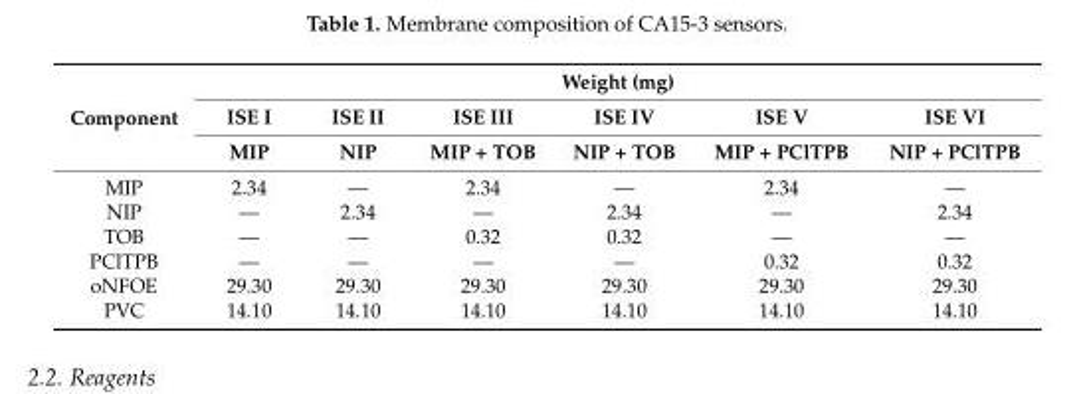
<table><thead><tr><td rowspan="3">Component</td><td colspan="6">Weight (mg)</td></tr><tr><td rowspan="2">ISE I MIP</td><td rowspan="2">ISE II NIP</td><td rowspan="2">ISE III MIP + TOB</td><td rowspan="2">ISE IV NIP + TOB</td><td rowspan="2">ISE V MIP + PClTPB</td><td rowspan="2">ISE VI NIP + PClTPB</td></tr><tr></tr></thead><tbody><tr><td>MIP</td><td>2.34</td><td>—</td><td>2.34</td><td>—</td><td>2.34</td><td>—</td></tr><tr><td>NIP</td><td>—</td><td>2.34</td><td>—</td><td>2.34</td><td>—</td><td>2.34</td></tr><tr><td>TOB</td><td>—</td><td>—</td><td>0.32</td><td>0.32</td><td>—</td><td>—</td></tr><tr><td>PClTPB</td><td>—</td><td>—</td><td>—</td><td>—</td><td>0.32</td><td>0.32</td></tr><tr><td>oNFOE</td><td>29.30</td><td>29.30</td><td>29.30</td><td>29.30</td><td>29.30</td><td>29.30</td></tr><tr><td>PVC</td><td>14.10</td><td>14.10</td><td>14.10</td><td>14.10</td><td>14.10</td><td>14.10</td></tr></tbody></table>